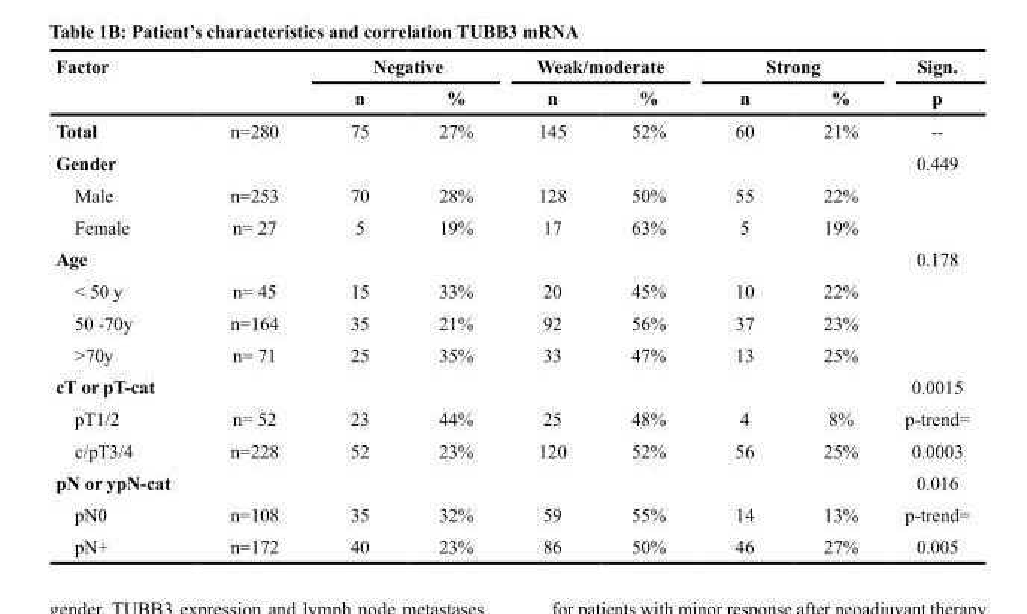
<table><thead><tr><td rowspan="2" colspan="2">Factor</td><td colspan="2">Negative</td><td colspan="2">Weak/moderate</td><td colspan="2">Strong</td><td rowspan="3">Sign. p --</td></tr><tr><td rowspan="2">n 75</td><td rowspan="2">% 27%</td><td rowspan="2">n 145</td><td rowspan="2">% 52%</td><td rowspan="2">n 60</td><td rowspan="2">% 21%</td></tr><tr><td>Total</td><td>n=280</td></tr></thead><tbody><tr><td>Gender</td><td></td><td></td><td></td><td></td><td></td><td></td><td></td><td>0.449</td></tr><tr><td>Male</td><td>n=253</td><td>70</td><td>28%</td><td>128</td><td>50%</td><td>55</td><td>22%</td><td></td></tr><tr><td>Female</td><td>n= 27</td><td>5</td><td>19%</td><td>17</td><td>63%</td><td>5</td><td>19%</td><td></td></tr><tr><td>Age</td><td></td><td></td><td></td><td></td><td></td><td></td><td></td><td>0.178</td></tr><tr><td>&lt; 50 y</td><td>n= 45</td><td>15</td><td>33%</td><td>20</td><td>45%</td><td>10</td><td>22%</td><td></td></tr><tr><td>50 -70y</td><td>n=164</td><td>35</td><td>21%</td><td>92</td><td>56%</td><td>37</td><td>23%</td><td></td></tr><tr><td>&gt;70y</td><td>n= 71</td><td>25</td><td>35%</td><td>33</td><td>47%</td><td>13</td><td>25%</td><td></td></tr><tr><td>cT or pT-cat</td><td></td><td></td><td></td><td></td><td></td><td></td><td></td><td>0.0015</td></tr><tr><td>pT1/2</td><td>n= 52</td><td>23</td><td>44%</td><td>25</td><td>48%</td><td>4</td><td>8%</td><td>p-trend=</td></tr><tr><td>c/pT3/4</td><td>n=228</td><td>52</td><td>23%</td><td>120</td><td>52%</td><td>56</td><td>25%</td><td>0.0003</td></tr><tr><td>pN or ypN-cat</td><td></td><td></td><td></td><td></td><td></td><td></td><td></td><td>0.016</td></tr><tr><td>pN0</td><td>n=108</td><td>35</td><td>32%</td><td>59</td><td>55%</td><td>14</td><td>13%</td><td>p-trend=</td></tr><tr><td>pN+</td><td>n=172</td><td>40</td><td>23%</td><td>86</td><td>50%</td><td>46</td><td>27%</td><td>0.005</td></tr></tbody></table>